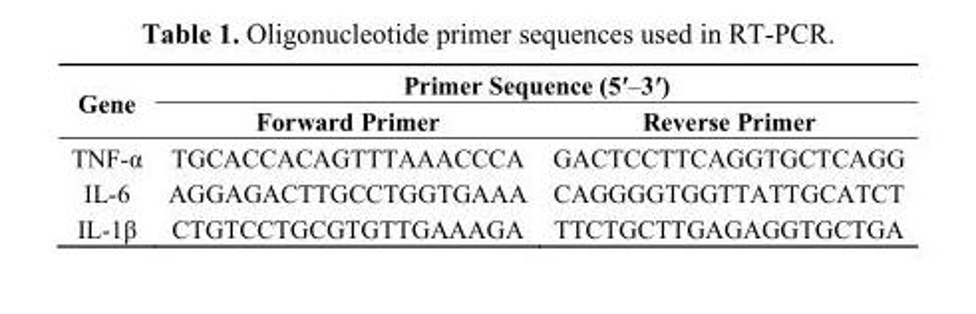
<table><thead><tr><td rowspan="2">Gene</td><td colspan="2">Primer Sequence (5′–3′)</td></tr><tr><td>Forward Primer</td><td>Reverse Primer</td></tr></thead><tbody><tr><td>TNF-α</td><td>TGCACCACAGTTTAAACCCA</td><td>GACTCCTTCAGGTGCTCAGG</td></tr><tr><td>IL-6</td><td>AGGAGACTTGCCTGGTGAAA</td><td>CAGGGGTGGTTATTGCATCT</td></tr><tr><td>IL-1β</td><td>CTGTCCTGCGTGTTGAAAGA</td><td>TTCTGCTTGAGAGGTGCTGA</td></tr></tbody></table>